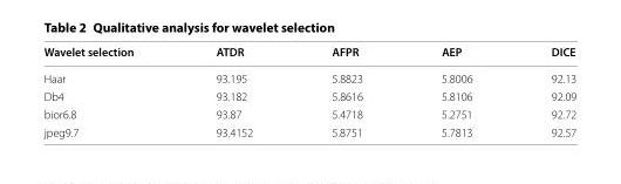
<table><thead><tr><td>Wavelet selection</td><td>ATDR</td><td>AFPR</td><td>AEP</td><td>DICE</td></tr></thead><tbody><tr><td>Haar</td><td>93.195</td><td>5.8823</td><td>5.8006</td><td>92.13</td></tr><tr><td>Db4</td><td>93.182</td><td>5.8616</td><td>5.8106</td><td>92.09</td></tr><tr><td>bior6.8</td><td>93.87</td><td>5.4718</td><td>5.2751</td><td>92.72</td></tr><tr><td>jpeg9.7</td><td>93.4152</td><td>5.8751</td><td>5.7813</td><td>92.57</td></tr></tbody></table>